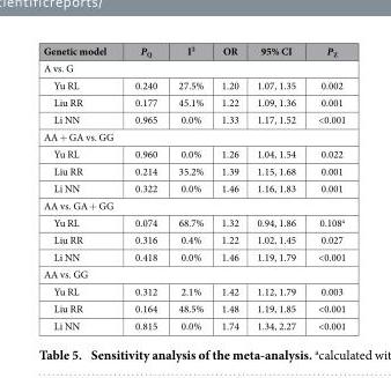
<table><thead><tr><td>Genetic model</td><td>P<sub>Q</sub></td><td>I<sup>2</sup></td><td>OR</td><td>95% CI</td><td>P<sub>Z</sub></td></tr></thead><tbody><tr><td colspan="6">A vs. G</td></tr><tr><td>Yu RL</td><td>0.240</td><td>27.5%</td><td>1.20</td><td>1.07, 1.35</td><td>0.002</td></tr><tr><td>Liu RR</td><td>0.177</td><td>45.1%</td><td>1.22</td><td>1.09, 1.36</td><td>0.001</td></tr><tr><td>Li NN</td><td>0.965</td><td>0.0%</td><td>1.33</td><td>1.17, 1.52</td><td>&lt;0.001</td></tr><tr><td colspan="6">AA + GA vs. GG</td></tr><tr><td>Yu RL</td><td>0.960</td><td>0.0%</td><td>1.26</td><td>1.04, 1.54</td><td>0.022</td></tr><tr><td>Liu RR</td><td>0.214</td><td>35.2%</td><td>1.39</td><td>1.15, 1.68</td><td>0.001</td></tr><tr><td>Li NN</td><td>0.322</td><td>0.0%</td><td>1.46</td><td>1.16, 1.83</td><td>0.001</td></tr><tr><td colspan="6">AA vs. GA + GG</td></tr><tr><td>Yu RL</td><td>0.074</td><td>68.7%</td><td>1.32</td><td>0.94, 1.86</td><td>0.108<sup>a</sup></td></tr><tr><td>Liu RR</td><td>0.316</td><td>0.4%</td><td>1.22</td><td>1.02, 1.45</td><td>0.027</td></tr><tr><td>Li NN</td><td>0.418</td><td>0.0%</td><td>1.46</td><td>1.19, 1.79</td><td>&lt;0.001</td></tr><tr><td colspan="6">AA vs. GG</td></tr><tr><td>Yu RL</td><td>0.312</td><td>2.1%</td><td>1.42</td><td>1.12, 1.79</td><td>0.003</td></tr><tr><td>Liu RR</td><td>0.164</td><td>48.5%</td><td>1.48</td><td>1.19, 1.85</td><td>&lt;0.001</td></tr><tr><td>Li NN</td><td>0.815</td><td>0.0%</td><td>1.74</td><td>1.34, 2.27</td><td>&lt;0.001</td></tr></tbody></table>